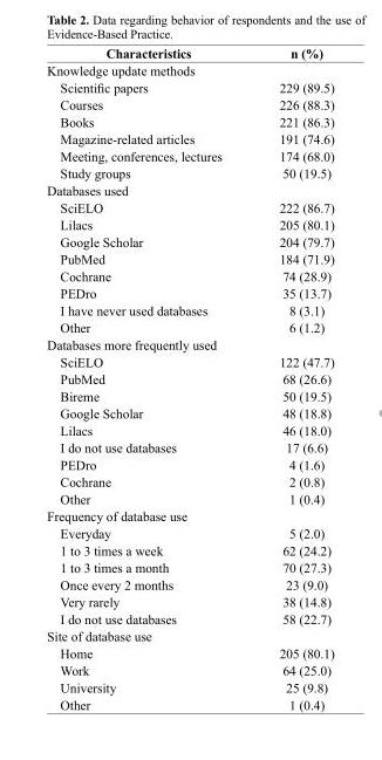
<table><thead><tr><td>Characteristics</td><td>n (%)</td></tr></thead><tbody><tr><td colspan="2">Knowledge update methods</td></tr><tr><td>Scientific papers</td><td>229 (89.5)</td></tr><tr><td>Courses</td><td>226 (88.3)</td></tr><tr><td>Books</td><td>221 (86.3)</td></tr><tr><td>Magazine-related articles</td><td>191 (74.6)</td></tr><tr><td>Meeting, conferences, lectures</td><td>174 (68.0)</td></tr><tr><td>Study groups</td><td>50 (19.5)</td></tr><tr><td colspan="2">Databases used</td></tr><tr><td>SciELO</td><td>222 (86.7)</td></tr><tr><td>Lilacs</td><td>205 (80.1)</td></tr><tr><td>Google Scholar</td><td>204 (79.7)</td></tr><tr><td>PubMed</td><td>184 (71.9)</td></tr><tr><td>Cochrane</td><td>74 (28.9)</td></tr><tr><td>PEDro</td><td>35 (13.7)</td></tr><tr><td>I have never used databases</td><td>8 (3.1)</td></tr><tr><td>Other</td><td>6 (1.2)</td></tr><tr><td colspan="2">Databases more frequently used</td></tr><tr><td>SciELO</td><td>122 (47.7)</td></tr><tr><td>PubMed</td><td>68 (26.6)</td></tr><tr><td>Bireme</td><td>50 (19.5)</td></tr><tr><td>Google Scholar</td><td>48 (18.8)</td></tr><tr><td>Lilacs</td><td>46 (18.0)</td></tr><tr><td>I do not use databases</td><td>17 (6.6)</td></tr><tr><td>PEDro</td><td>4 (1.6)</td></tr><tr><td>Cochrane</td><td>2 (0.8)</td></tr><tr><td>Other</td><td>1 (0.4)</td></tr><tr><td colspan="2">Frequency of database use</td></tr><tr><td>Everyday</td><td>5 (2.0)</td></tr><tr><td>1 to 3 times a week</td><td>62 (24.2)</td></tr><tr><td>1 to 3 times a month</td><td>70 (27.3)</td></tr><tr><td>Once every 2 months</td><td>23 (9.0)</td></tr><tr><td>Very rarely</td><td>38 (14.8)</td></tr><tr><td>I do not use databases</td><td>58 (22.7)</td></tr><tr><td colspan="2">Site of database use</td></tr><tr><td>Home</td><td>205 (80.1)</td></tr><tr><td>Work</td><td>64 (25.0)</td></tr><tr><td>University</td><td>25 (9.8)</td></tr><tr><td>Other</td><td>1 (0.4)</td></tr></tbody></table>